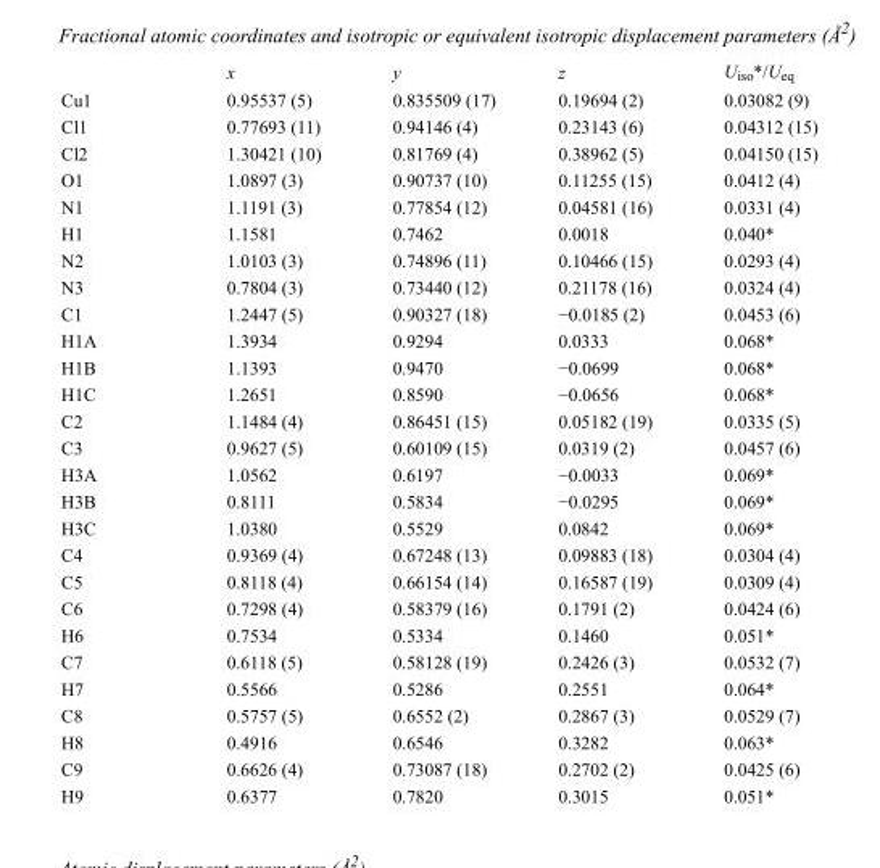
<table><thead><tr><td></td><td>x</td><td>y</td><td>z</td><td>U<sub>iso</sub>*/U<sub>eq</sub></td></tr></thead><tbody><tr><td>Cu1</td><td>0.95537 (5)</td><td>0.835509 (17)</td><td>0.19694 (2)</td><td>0.03082 (9)</td></tr><tr><td>Cl1</td><td>0.77693 (11)</td><td>0.94146 (4)</td><td>0.23143 (6)</td><td>0.04312 (15)</td></tr><tr><td>Cl2</td><td>1.30421 (10)</td><td>0.81769 (4)</td><td>0.38962 (5)</td><td>0.04150 (15)</td></tr><tr><td>O1</td><td>1.0897 (3)</td><td>0.90737 (10)</td><td>0.11255 (15)</td><td>0.0412 (4)</td></tr><tr><td>N1</td><td>1.1191 (3)</td><td>0.77854 (12)</td><td>0.04581 (16)</td><td>0.0331 (4)</td></tr><tr><td>H1</td><td>1.1581</td><td>0.7462</td><td>0.0018</td><td>0.040*</td></tr><tr><td>N2</td><td>1.0103 (3)</td><td>0.74896 (11)</td><td>0.10466 (15)</td><td>0.0293 (4)</td></tr><tr><td>N3</td><td>0.7804 (3)</td><td>0.73440 (12)</td><td>0.21178 (16)</td><td>0.0324 (4)</td></tr><tr><td>C1</td><td>1.2447 (5)</td><td>0.90327 (18)</td><td>−0.0185 (2)</td><td>0.0453 (6)</td></tr><tr><td>H1A</td><td>1.3934</td><td>0.9294</td><td>0.0333</td><td>0.068*</td></tr><tr><td>H1B</td><td>1.1393</td><td>0.9470</td><td>−0.0699</td><td>0.068*</td></tr><tr><td>H1C</td><td>1.2651</td><td>0.8590</td><td>−0.0656</td><td>0.068*</td></tr><tr><td>C2</td><td>1.1484 (4)</td><td>0.86451 (15)</td><td>0.05182 (19)</td><td>0.0335 (5)</td></tr><tr><td>C3</td><td>0.9627 (5)</td><td>0.60109 (15)</td><td>0.0319 (2)</td><td>0.0457 (6)</td></tr><tr><td>H3A</td><td>1.0562</td><td>0.6197</td><td>−0.0033</td><td>0.069*</td></tr><tr><td>H3B</td><td>0.8111</td><td>0.5834</td><td>−0.0295</td><td>0.069*</td></tr><tr><td>H3C</td><td>1.0380</td><td>0.5529</td><td>0.0842</td><td>0.069*</td></tr><tr><td>C4</td><td>0.9369 (4)</td><td>0.67248 (13)</td><td>0.09883 (18)</td><td>0.0304 (4)</td></tr><tr><td>C5</td><td>0.8118 (4)</td><td>0.66154 (14)</td><td>0.16587 (19)</td><td>0.0309 (4)</td></tr><tr><td>C6</td><td>0.7298 (4)</td><td>0.58379 (16)</td><td>0.1791 (2)</td><td>0.0424 (6)</td></tr><tr><td>H6</td><td>0.7534</td><td>0.5334</td><td>0.1460</td><td>0.051*</td></tr><tr><td>C7</td><td>0.6118 (5)</td><td>0.58128 (19)</td><td>0.2426 (3)</td><td>0.0532 (7)</td></tr><tr><td>H7</td><td>0.5566</td><td>0.5286</td><td>0.2551</td><td>0.064*</td></tr><tr><td>C8</td><td>0.5757 (5)</td><td>0.6552 (2)</td><td>0.2867 (3)</td><td>0.0529 (7)</td></tr><tr><td>H8</td><td>0.4916</td><td>0.6546</td><td>0.3282</td><td>0.063*</td></tr><tr><td>C9</td><td>0.6626 (4)</td><td>0.73087 (18)</td><td>0.2702 (2)</td><td>0.0425 (6)</td></tr><tr><td>H9</td><td>0.6377</td><td>0.7820</td><td>0.3015</td><td>0.051*</td></tr></tbody></table>